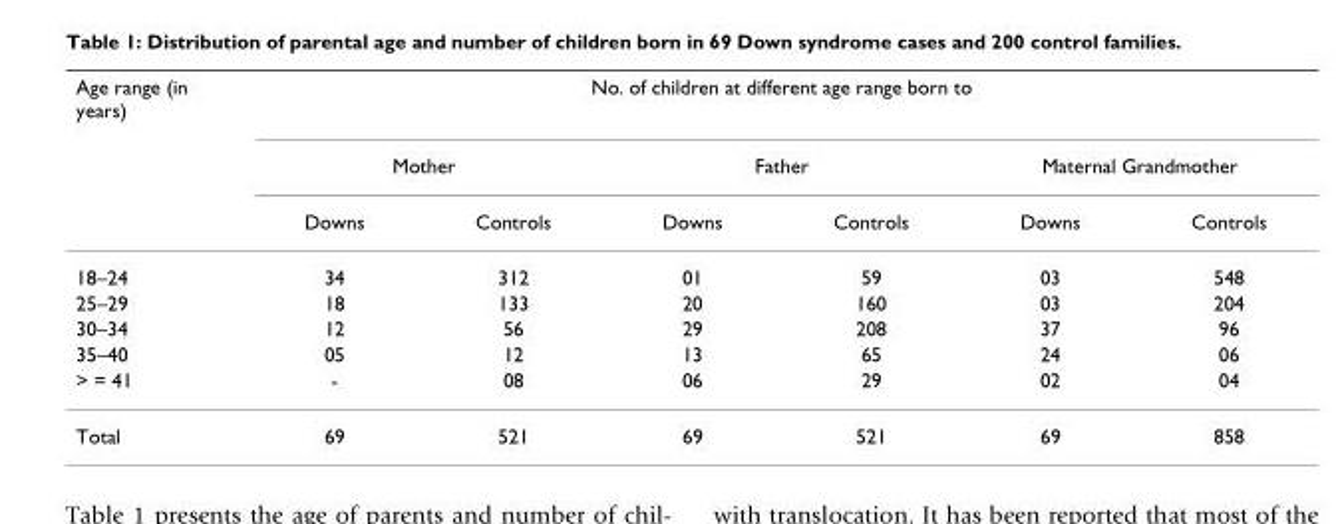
<table><thead><tr><td rowspan="3">Age range (in years)</td><td colspan="6">No. of children at different age range born to</td></tr><tr><td colspan="2">Mother</td><td colspan="2">Father</td><td colspan="2">Maternal Grandmother</td></tr><tr><td>Downs</td><td>Controls</td><td>Downs</td><td>Controls</td><td>Downs</td><td>Controls</td></tr></thead><tbody><tr><td>18–24</td><td>34</td><td>312</td><td>01</td><td>59</td><td>03</td><td>548</td></tr><tr><td>25–29</td><td>18</td><td>133</td><td>20</td><td>160</td><td>03</td><td>204</td></tr><tr><td>30–34</td><td>12</td><td>56</td><td>29</td><td>208</td><td>37</td><td>96</td></tr><tr><td>35–40</td><td>05</td><td>12</td><td>13</td><td>65</td><td>24</td><td>06</td></tr><tr><td>&gt; = 41</td><td>-</td><td>08</td><td>06</td><td>29</td><td>02</td><td>04</td></tr><tr><td>Total</td><td>69</td><td>521</td><td>69</td><td>521</td><td>69</td><td>858</td></tr></tbody></table>